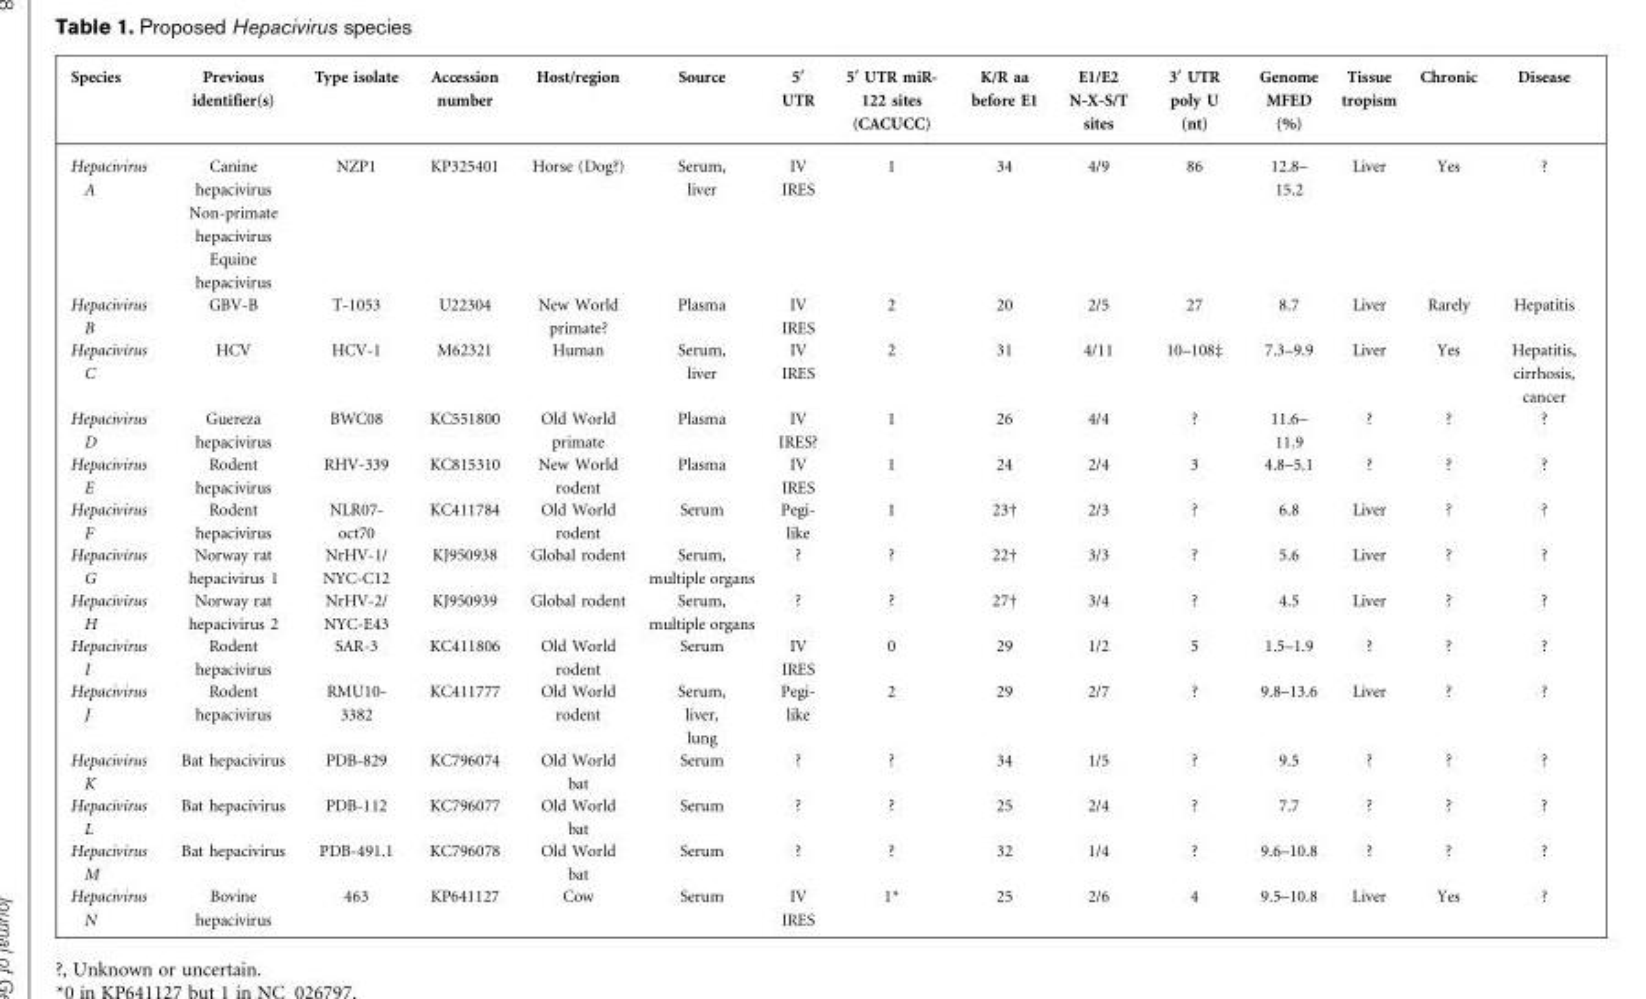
<table><thead><tr><td>Species</td><td>Previous identifier(s)</td><td>Type isolate</td><td>Accession number</td><td>Host/region</td><td>Source</td><td>5¢ UTR</td><td>5¢ UTR miR- 122 sites (CACUCC)</td><td>K/R aa before E1</td><td>E1/E2 N-X-S/T sites</td><td>3¢ UTR poly U (nt)</td><td>Genome MFED (%)</td><td>Tissue tropism</td><td>Chronic</td><td>Disease</td></tr></thead><tbody><tr><td>Hepacivirus A</td><td>Canine hepacivirus Non-primate hepacivirus Equine hepacivirus</td><td>NZP1</td><td>KP325401</td><td>Horse (Dog?)</td><td>Serum, liver</td><td>IV IRES</td><td>1</td><td>34</td><td>4/9</td><td>86</td><td>12.8– 15.2</td><td>Liver</td><td>Yes</td><td>?</td></tr><tr><td>Hepacivirus B</td><td>GBV-B</td><td>T-1053</td><td>U22304</td><td>New World primate?</td><td>Plasma</td><td>IV IRES</td><td>2</td><td>20</td><td>2/5</td><td>27</td><td>8.7</td><td>Liver</td><td>Rarely</td><td>Hepatitis</td></tr><tr><td>Hepacivirus C</td><td>HCV</td><td>HCV-1</td><td>M62321</td><td>Human</td><td>Serum, liver</td><td>IV IRES</td><td>2</td><td>31</td><td>4/11</td><td>10–108‡</td><td>7.3–9.9</td><td>Liver</td><td>Yes</td><td>Hepatitis, cirrhosis, cancer</td></tr><tr><td>Hepacivirus D</td><td>Guereza hepacivirus</td><td>BWC08</td><td>KC551800</td><td>Old World primate</td><td>Plasma</td><td>IV IRES?</td><td>1</td><td>26</td><td>4/4</td><td>?</td><td>11.6– 11.9</td><td>?</td><td>?</td><td>?</td></tr><tr><td>Hepacivirus E</td><td>Rodent hepacivirus</td><td>RHV-339</td><td>KC815310</td><td>New World rodent</td><td>Plasma</td><td>IV IRES</td><td>1</td><td>24</td><td>2/4</td><td>3</td><td>4.8–5.1</td><td>?</td><td>?</td><td>?</td></tr><tr><td>Hepacivirus F</td><td>Rodent hepacivirus</td><td>NLR07- oct70</td><td>KC411784</td><td>Old World rodent</td><td>Serum</td><td>Pegi- like</td><td>1</td><td>23†</td><td>2/3</td><td>?</td><td>6.8</td><td>Liver</td><td>?</td><td>?</td></tr><tr><td>Hepacivirus G</td><td>Norway rat hepacivirus 1</td><td>NrHV-1/ NYC-C12</td><td>KJ950938</td><td>Global rodent</td><td>Serum, multiple organs</td><td>?</td><td>?</td><td>22†</td><td>3/3</td><td>?</td><td>5.6</td><td>Liver</td><td>?</td><td>?</td></tr><tr><td>Hepacivirus H</td><td>Norway rat hepacivirus 2</td><td>NrHV-2/ NYC-E43</td><td>KJ950939</td><td>Global rodent</td><td>Serum, multiple organs</td><td>?</td><td>?</td><td>27†</td><td>3/4</td><td>?</td><td>4.5</td><td>Liver</td><td>?</td><td>?</td></tr><tr><td>Hepacivirus I</td><td>Rodent hepacivirus</td><td>SAR-3</td><td>KC411806</td><td>Old World rodent</td><td>Serum</td><td>IV IRES</td><td>0</td><td>29</td><td>1/2</td><td>5</td><td>1.5–1.9</td><td>?</td><td>?</td><td>?</td></tr><tr><td>Hepacivirus J</td><td>Rodent hepacivirus</td><td>RMU10- 3382</td><td>KC411777</td><td>Old World rodent</td><td>Serum, liver, lung</td><td>Pegi- like</td><td>2</td><td>29</td><td>2/7</td><td>?</td><td>9.8–13.6</td><td>Liver</td><td>?</td><td>?</td></tr><tr><td>Hepacivirus K</td><td>Bat hepacivirus</td><td>PDB-829</td><td>KC796074</td><td>Old World bat</td><td>Serum</td><td>?</td><td>?</td><td>34</td><td>1/5</td><td>?</td><td>9.5</td><td>?</td><td>?</td><td>?</td></tr><tr><td>Hepacivirus L</td><td>Bat hepacivirus</td><td>PDB-112</td><td>KC796077</td><td>Old World bat</td><td>Serum</td><td>?</td><td>?</td><td>25</td><td>2/4</td><td>?</td><td>7.7</td><td>?</td><td>?</td><td>?</td></tr><tr><td>Hepacivirus M</td><td>Bat hepacivirus</td><td>PDB-491.1</td><td>KC796078</td><td>Old World bat</td><td>Serum</td><td>?</td><td>?</td><td>32</td><td>1/4</td><td>?</td><td>9.6–10.8</td><td>?</td><td>?</td><td>?</td></tr><tr><td>Hepacivirus N</td><td>Bovine hepacivirus</td><td>463</td><td>KP641127</td><td>Cow</td><td>Serum</td><td>IV IRES</td><td>1*</td><td>25</td><td>2/6</td><td>4</td><td>9.5–10.8</td><td>Liver</td><td>Yes</td><td>?</td></tr></tbody></table>